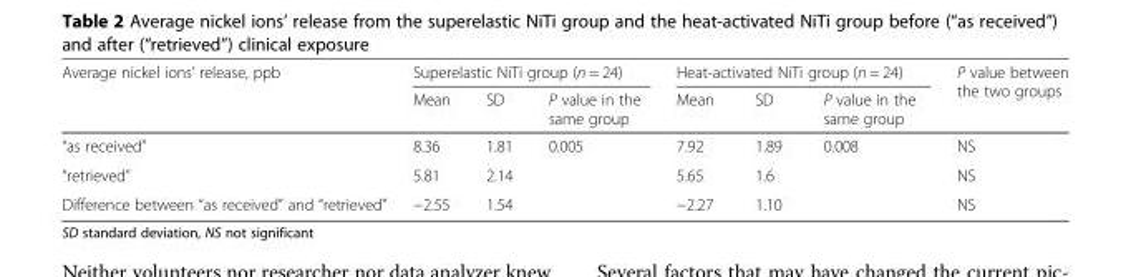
<table><thead><tr><td rowspan="2">Average nickel ions’ release, ppb</td><td colspan="3">Superelastic NiTi group (n = 24)</td><td colspan="3">Heat-activated NiTi group (n = 24)</td><td rowspan="2">P value between the two groups</td></tr><tr><td>Mean</td><td>SD</td><td>P value in the same group</td><td>Mean</td><td>SD</td><td>P value in the same group</td></tr></thead><tbody><tr><td>“as received”</td><td>8.36</td><td>1.81</td><td rowspan="2">0.005</td><td>7.92</td><td>1.89</td><td rowspan="2">0.008</td><td>NS</td></tr><tr><td>“retrieved”</td><td>5.81</td><td>2.14</td><td>5.65</td><td>1.6</td><td>NS</td></tr><tr><td>Difference between “as received” and “retrieved”</td><td>−2.55</td><td>1.54</td><td></td><td>−2.27</td><td>1.10</td><td></td><td>NS</td></tr></tbody></table>